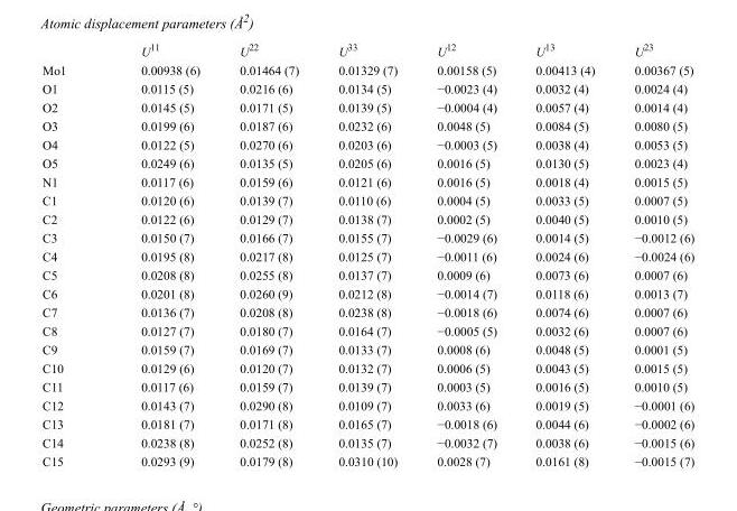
<table><thead><tr><td></td><td>U<sup>11</sup></td><td>U<sup>22</sup></td><td>U<sup>33</sup></td><td>U<sup>12</sup></td><td>U<sup>13</sup></td><td>U<sup>23</sup></td></tr></thead><tbody><tr><td>Mo1</td><td>0.00938 (6)</td><td>0.01464 (7)</td><td>0.01329 (7)</td><td>0.00158 (5)</td><td>0.00413 (4)</td><td>0.00367 (5)</td></tr><tr><td>O1</td><td>0.0115 (5)</td><td>0.0216 (6)</td><td>0.0134 (5)</td><td>−0.0023 (4)</td><td>0.0032 (4)</td><td>0.0024 (4)</td></tr><tr><td>O2</td><td>0.0145 (5)</td><td>0.0171 (5)</td><td>0.0139 (5)</td><td>−0.0004 (4)</td><td>0.0057 (4)</td><td>0.0014 (4)</td></tr><tr><td>O3</td><td>0.0199 (6)</td><td>0.0187 (6)</td><td>0.0232 (6)</td><td>0.0048 (5)</td><td>0.0084 (5)</td><td>0.0080 (5)</td></tr><tr><td>O4</td><td>0.0122 (5)</td><td>0.0270 (6)</td><td>0.0203 (6)</td><td>−0.0003 (5)</td><td>0.0038 (4)</td><td>0.0053 (5)</td></tr><tr><td>O5</td><td>0.0249 (6)</td><td>0.0135 (5)</td><td>0.0205 (6)</td><td>0.0016 (5)</td><td>0.0130 (5)</td><td>0.0023 (4)</td></tr><tr><td>N1</td><td>0.0117 (6)</td><td>0.0159 (6)</td><td>0.0121 (6)</td><td>0.0016 (5)</td><td>0.0018 (4)</td><td>0.0015 (5)</td></tr><tr><td>C1</td><td>0.0120 (6)</td><td>0.0139 (7)</td><td>0.0110 (6)</td><td>0.0004 (5)</td><td>0.0033 (5)</td><td>0.0007 (5)</td></tr><tr><td>C2</td><td>0.0122 (6)</td><td>0.0129 (7)</td><td>0.0138 (7)</td><td>0.0002 (5)</td><td>0.0040 (5)</td><td>0.0010 (5)</td></tr><tr><td>C3</td><td>0.0150 (7)</td><td>0.0166 (7)</td><td>0.0155 (7)</td><td>−0.0029 (6)</td><td>0.0014 (5)</td><td>−0.0012 (6)</td></tr><tr><td>C4</td><td>0.0195 (8)</td><td>0.0217 (8)</td><td>0.0125 (7)</td><td>−0.0011 (6)</td><td>0.0024 (6)</td><td>−0.0024 (6)</td></tr><tr><td>C5</td><td>0.0208 (8)</td><td>0.0255 (8)</td><td>0.0137 (7)</td><td>0.0009 (6)</td><td>0.0073 (6)</td><td>0.0007 (6)</td></tr><tr><td>C6</td><td>0.0201 (8)</td><td>0.0260 (9)</td><td>0.0212 (8)</td><td>−0.0014 (7)</td><td>0.0118 (6)</td><td>0.0013 (7)</td></tr><tr><td>C7</td><td>0.0136 (7)</td><td>0.0208 (8)</td><td>0.0238 (8)</td><td>−0.0018 (6)</td><td>0.0074 (6)</td><td>0.0007 (6)</td></tr><tr><td>C8</td><td>0.0127 (7)</td><td>0.0180 (7)</td><td>0.0164 (7)</td><td>−0.0005 (5)</td><td>0.0032 (6)</td><td>0.0007 (6)</td></tr><tr><td>C9</td><td>0.0159 (7)</td><td>0.0169 (7)</td><td>0.0133 (7)</td><td>0.0008 (6)</td><td>0.0048 (5)</td><td>0.0001 (5)</td></tr><tr><td>C10</td><td>0.0129 (6)</td><td>0.0120 (7)</td><td>0.0132 (7)</td><td>0.0006 (5)</td><td>0.0043 (5)</td><td>0.0015 (5)</td></tr><tr><td>C11</td><td>0.0117 (6)</td><td>0.0159 (7)</td><td>0.0139 (7)</td><td>0.0003 (5)</td><td>0.0016 (5)</td><td>0.0010 (5)</td></tr><tr><td>C12</td><td>0.0143 (7)</td><td>0.0290 (8)</td><td>0.0109 (7)</td><td>0.0033 (6)</td><td>0.0019 (5)</td><td>−0.0001 (6)</td></tr><tr><td>C13</td><td>0.0181 (7)</td><td>0.0171 (8)</td><td>0.0165 (7)</td><td>−0.0018 (6)</td><td>0.0044 (6)</td><td>−0.0002 (6)</td></tr><tr><td>C14</td><td>0.0238 (8)</td><td>0.0252 (8)</td><td>0.0135 (7)</td><td>−0.0032 (7)</td><td>0.0038 (6)</td><td>−0.0015 (6)</td></tr><tr><td>C15</td><td>0.0293 (9)</td><td>0.0179 (8)</td><td>0.0310 (10)</td><td>0.0028 (7)</td><td>0.0161 (8)</td><td>−0.0015 (7)</td></tr></tbody></table>